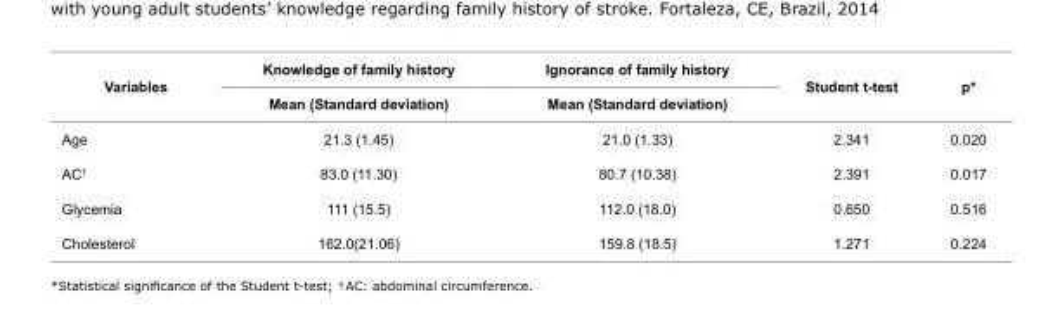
<table><tbody><tr><td rowspan="2">Variables</td><td>Knowledge of family history</td><td>Ignorance of family history</td><td rowspan="2">Student t-test</td><td rowspan="2">p*</td></tr><tr><td>Mean (Standard deviation)</td><td>Mean (Standard deviation)</td></tr><tr><td>Age</td><td>21.3 (1.45)</td><td>21.0 (1.33)</td><td>2.341</td><td>0.020</td></tr><tr><td>AC<sup>†</sup></td><td>83.0 (11.30)</td><td>80.7 (10.38)</td><td>2.391</td><td>0.017</td></tr><tr><td>Glycemia</td><td>111 (15.5)</td><td>112.0 (18.0)</td><td>0.650</td><td>0.516</td></tr><tr><td>Cholesterol</td><td>162.0(21.06)</td><td>159.8 (18.5)</td><td>1.271</td><td>0.224</td></tr></tbody></table>